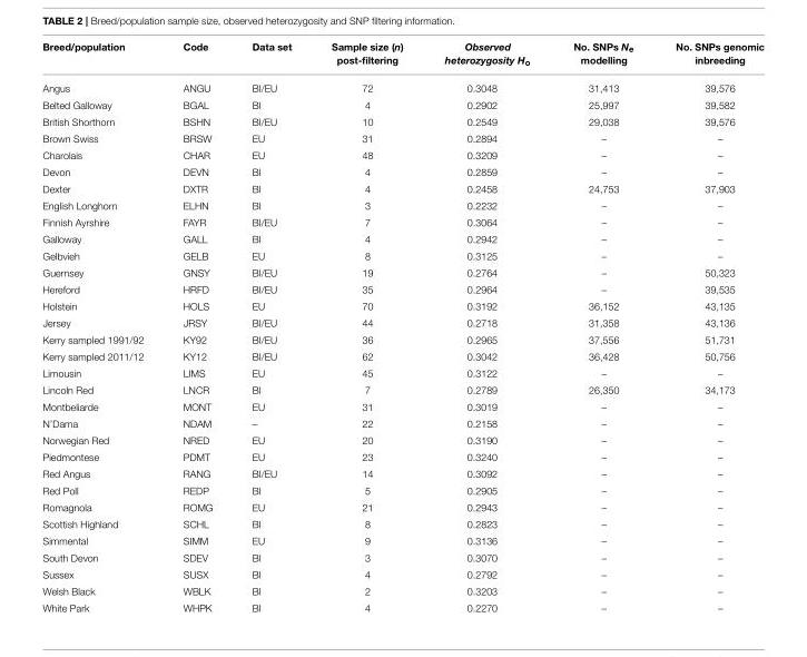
<table><thead><tr><td>Breed/population</td><td>Code</td><td>Data set</td><td>Sample size (n) post-filtering</td><td>Observed heterozygosity H<sub>o</sub></td><td>No. SNPs N<sub>e</sub> modelling</td><td>No. SNPs genomic inbreeding</td></tr></thead><tbody><tr><td>Angus</td><td>ANGU</td><td>BI/EU</td><td>72</td><td>0.3048</td><td>31,413</td><td>39,576</td></tr><tr><td>Belted Galloway</td><td>BGAL</td><td>BI</td><td>4</td><td>0.2902</td><td>25,997</td><td>39,582</td></tr><tr><td>British Shorthorn</td><td>BSHN</td><td>BI/EU</td><td>10</td><td>0.2549</td><td>29,038</td><td>39,576</td></tr><tr><td>Brown Swiss</td><td>BRSW</td><td>EU</td><td>31</td><td>0.2894</td><td>–</td><td>–</td></tr><tr><td>Charolais</td><td>CHAR</td><td>EU</td><td>48</td><td>0.3209</td><td>–</td><td>–</td></tr><tr><td>Devon</td><td>DEVN</td><td>BI</td><td>4</td><td>0.2859</td><td>–</td><td>–</td></tr><tr><td>Dexter</td><td>DXTR</td><td>BI</td><td>4</td><td>0.2458</td><td>24,753</td><td>37,903</td></tr><tr><td>English Longhorn</td><td>ELHN</td><td>BI</td><td>3</td><td>0.2232</td><td>–</td><td>–</td></tr><tr><td>Finnish Ayrshire</td><td>FAYR</td><td>BI/EU</td><td>7</td><td>0.3064</td><td>–</td><td>–</td></tr><tr><td>Galloway</td><td>GALL</td><td>BI</td><td>4</td><td>0.2942</td><td>–</td><td>–</td></tr><tr><td>Gelbvieh</td><td>GELB</td><td>EU</td><td>8</td><td>0.3125</td><td>–</td><td>–</td></tr><tr><td>Guernsey</td><td>GNSY</td><td>BI/EU</td><td>19</td><td>0.2764</td><td>–</td><td>50,323</td></tr><tr><td>Hereford</td><td>HRFD</td><td>BI/EU</td><td>35</td><td>0.2964</td><td>–</td><td>39,535</td></tr><tr><td>Holstein</td><td>HOLS</td><td>EU</td><td>70</td><td>0.3192</td><td>36,152</td><td>43,135</td></tr><tr><td>Jersey</td><td>JRSY</td><td>BI/EU</td><td>44</td><td>0.2718</td><td>31,358</td><td>43,136</td></tr><tr><td>Kerry sampled 1991/92</td><td>KY92</td><td>BI/EU</td><td>36</td><td>0.2965</td><td>37,556</td><td>51,731</td></tr><tr><td>Kerry sampled 2011/12</td><td>KY12</td><td>BI/EU</td><td>62</td><td>0.3042</td><td>36,428</td><td>50,756</td></tr><tr><td>Limousin</td><td>LIMS</td><td>EU</td><td>45</td><td>0.3122</td><td>–</td><td>–</td></tr><tr><td>Lincoln Red</td><td>LNCR</td><td>BI</td><td>7</td><td>0.2789</td><td>26,350</td><td>34,173</td></tr><tr><td>Montbeliarde</td><td>MONT</td><td>EU</td><td>31</td><td>0.3019</td><td>–</td><td>–</td></tr><tr><td>N’Dama</td><td>NDAM</td><td>–</td><td>22</td><td>0.2158</td><td>–</td><td>–</td></tr><tr><td>Norwegian Red</td><td>NRED</td><td>EU</td><td>20</td><td>0.3190</td><td>–</td><td>–</td></tr><tr><td>Piedmontese</td><td>PDMT</td><td>EU</td><td>23</td><td>0.3240</td><td>–</td><td>–</td></tr><tr><td>Red Angus</td><td>RANG</td><td>BI/EU</td><td>14</td><td>0.3092</td><td>–</td><td>–</td></tr><tr><td>Red Poll</td><td>REDP</td><td>BI</td><td>5</td><td>0.2905</td><td>–</td><td>–</td></tr><tr><td>Romagnola</td><td>ROMG</td><td>EU</td><td>21</td><td>0.2943</td><td>–</td><td>–</td></tr><tr><td>Scottish Highland</td><td>SCHL</td><td>BI</td><td>8</td><td>0.2823</td><td>–</td><td>–</td></tr><tr><td>Simmental</td><td>SIMM</td><td>EU</td><td>9</td><td>0.3136</td><td>–</td><td>–</td></tr><tr><td>South Devon</td><td>SDEV</td><td>BI</td><td>3</td><td>0.3070</td><td>–</td><td>–</td></tr><tr><td>Sussex</td><td>SUSX</td><td>BI</td><td>4</td><td>0.2792</td><td>–</td><td>–</td></tr><tr><td>Welsh Black</td><td>WBLK</td><td>BI</td><td>2</td><td>0.3203</td><td>–</td><td>–</td></tr><tr><td>White Park</td><td>WHPK</td><td>BI</td><td>4</td><td>0.2270</td><td>–</td><td>–</td></tr></tbody></table>